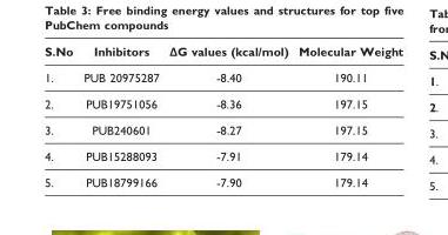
<table><thead><tr><td>S.No</td><td>Inhibitors</td><td>ΔG values (kcal/mol)</td><td>Molecular Weight</td></tr></thead><tbody><tr><td>1.</td><td>PUB 20975287</td><td>-8.40</td><td>190.11</td></tr><tr><td>2.</td><td>PUB19751056</td><td>-8.36</td><td>197.15</td></tr><tr><td>3.</td><td>PUB240601</td><td>-8.27</td><td>197.15</td></tr><tr><td>4.</td><td>PUB15288093</td><td>-7.91</td><td>179.14</td></tr><tr><td>5.</td><td>PUB18799166</td><td>-7.90</td><td>179.14</td></tr></tbody></table>